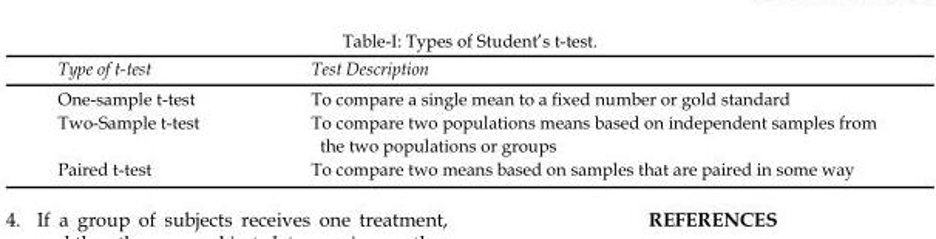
<table><thead><tr><td>Type of t-test</td><td>Test Description</td></tr></thead><tbody><tr><td>One-sample t-test</td><td>To compare a single mean to a fixed number or gold standard</td></tr><tr><td>Two-Sample t-test</td><td>To compare two populations means based on independent samples from the two populations or groups</td></tr><tr><td>Paired t-test</td><td>To compare two means based on samples that are paired in some way</td></tr></tbody></table>